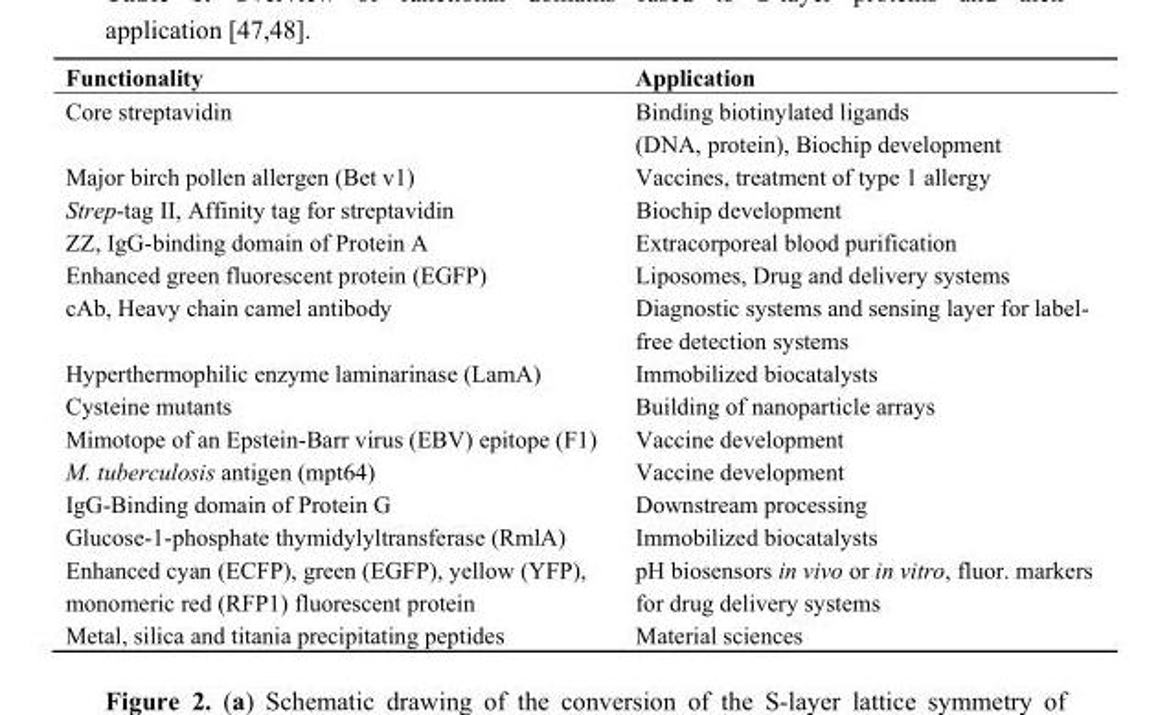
<table><thead><tr><td>Functionality</td><td>Application</td></tr></thead><tbody><tr><td>Core streptavidin</td><td>Binding biotinylated ligands (DNA, protein), Biochip development</td></tr><tr><td>Major birch pollen allergen (Bet v1)</td><td>Vaccines, treatment of type 1 allergy</td></tr><tr><td>Strep-tag II, Affinity tag for streptavidin</td><td>Biochip development</td></tr><tr><td>ZZ, IgG-binding domain of Protein A</td><td>Extracorporeal blood purification</td></tr><tr><td>Enhanced green fluorescent protein (EGFP)</td><td>Liposomes, Drug and delivery systems</td></tr><tr><td>cAb, Heavy chain camel antibody</td><td>Diagnostic systems and sensing layer for label- free detection systems</td></tr><tr><td>Hyperthermophilic enzyme laminarinase (LamA)</td><td>Immobilized biocatalysts</td></tr><tr><td>Cysteine mutants</td><td>Building of nanoparticle arrays</td></tr><tr><td>Mimotope of an Epstein-Barr virus (EBV) epitope (F1)</td><td>Vaccine development</td></tr><tr><td>M. tuberculosis antigen (mpt64)</td><td>Vaccine development</td></tr><tr><td>IgG-Binding domain of Protein G</td><td>Downstream processing</td></tr><tr><td>Glucose-1-phosphate thymidylyltransferase (RmlA)</td><td>Immobilized biocatalysts</td></tr><tr><td>Enhanced cyan (ECFP), green (EGFP), yellow (YFP), monomeric red (RFP1) fluorescent protein</td><td>pH biosensors in vivo or in vitro, fluor. markers for drug delivery systems</td></tr><tr><td>Metal, silica and titania precipitating peptides</td><td>Material sciences</td></tr></tbody></table>